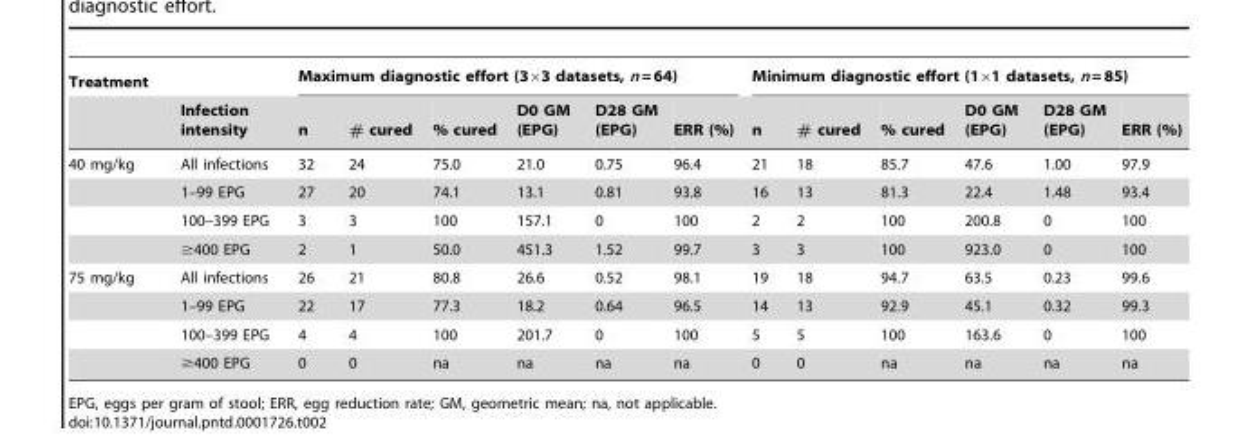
<table><thead><tr><td rowspan="2">Treatment</td><td rowspan="2">Infection intensity</td><td colspan="6">Maximum diagnostic effort (3×3 datasets, n = 64)</td><td colspan="6">Minimum diagnostic effort (1×1 datasets, n = 85)</td></tr><tr><td>n</td><td># cured</td><td>% cured</td><td>D0 GM (EPG)</td><td>D28 GM (EPG)</td><td>ERR (%)</td><td>n</td><td># cured</td><td>% cured</td><td>D0 GM (EPG)</td><td>D28 GM (EPG)</td><td>ERR (%)</td></tr></thead><tbody><tr><td rowspan="4">40 mg/kg</td><td>All infections</td><td>32</td><td>24</td><td>75.0</td><td>21.0</td><td>0.75</td><td>96.4</td><td>21</td><td>18</td><td>85.7</td><td>47.6</td><td>1.00</td><td>97.9</td></tr><tr><td>1–99 EPG</td><td>27</td><td>20</td><td>74.1</td><td>13.1</td><td>0.81</td><td>93.8</td><td>16</td><td>13</td><td>81.3</td><td>22.4</td><td>1.48</td><td>93.4</td></tr><tr><td>100–399 EPG</td><td>3</td><td>3</td><td>100</td><td>157.1</td><td>0</td><td>100</td><td>2</td><td>2</td><td>100</td><td>200.8</td><td>0</td><td>100</td></tr><tr><td>≥400 EPG</td><td>2</td><td>1</td><td>50.0</td><td>451.3</td><td>1.52</td><td>99.7</td><td>3</td><td>3</td><td>100</td><td>923.0</td><td>0</td><td>100</td></tr><tr><td rowspan="4">75 mg/kg</td><td>All infections</td><td>26</td><td>21</td><td>80.8</td><td>26.6</td><td>0.52</td><td>98.1</td><td>19</td><td>18</td><td>94.7</td><td>63.5</td><td>0.23</td><td>99.6</td></tr><tr><td>1–99 EPG</td><td>22</td><td>17</td><td>77.3</td><td>18.2</td><td>0.64</td><td>96.5</td><td>14</td><td>13</td><td>92.9</td><td>45.1</td><td>0.32</td><td>99.3</td></tr><tr><td>100–399 EPG</td><td>4</td><td>4</td><td>100</td><td>201.7</td><td>0</td><td>100</td><td>5</td><td>5</td><td>100</td><td>163.6</td><td>0</td><td>100</td></tr><tr><td>≥400 EPG</td><td>0</td><td>0</td><td>na</td><td>na</td><td>na</td><td>na</td><td>0</td><td>0</td><td>na</td><td>na</td><td>na</td><td>na</td></tr></tbody></table>